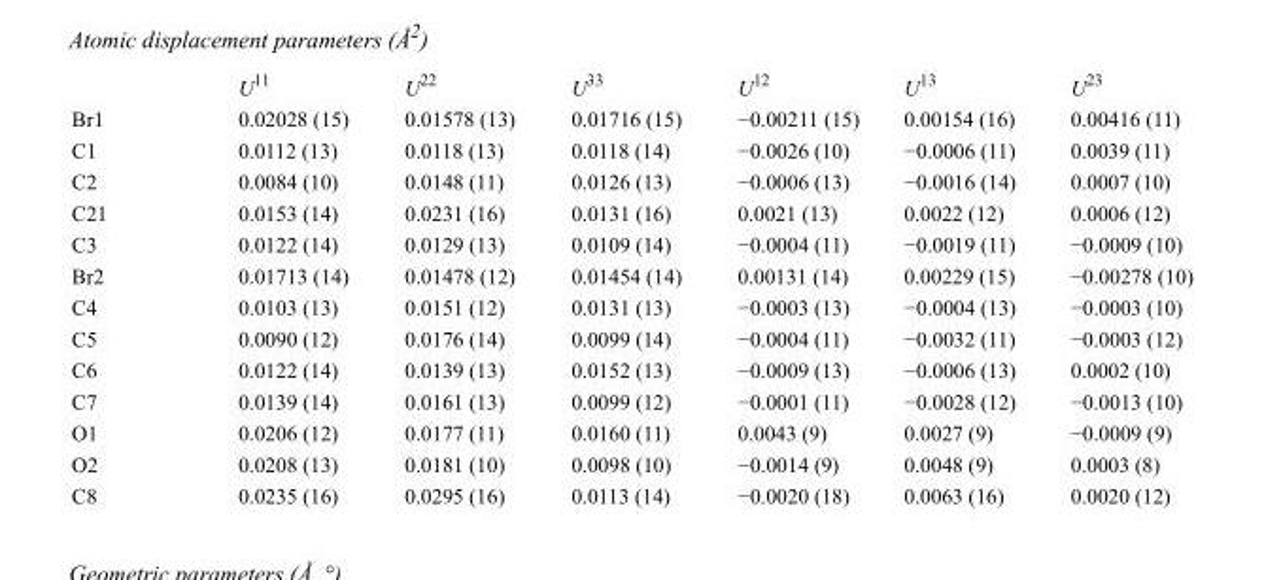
<table><thead><tr><td></td><td>U<sup>11</sup></td><td>U<sup>22</sup></td><td>U<sup>33</sup></td><td>U<sup>12</sup></td><td>U<sup>13</sup></td><td>U<sup>23</sup></td></tr></thead><tbody><tr><td>Br1</td><td>0.02028 (15)</td><td>0.01578 (13)</td><td>0.01716 (15)</td><td>−0.00211 (15)</td><td>0.00154 (16)</td><td>0.00416 (11)</td></tr><tr><td>C1</td><td>0.0112 (13)</td><td>0.0118 (13)</td><td>0.0118 (14)</td><td>−0.0026 (10)</td><td>−0.0006 (11)</td><td>0.0039 (11)</td></tr><tr><td>C2</td><td>0.0084 (10)</td><td>0.0148 (11)</td><td>0.0126 (13)</td><td>−0.0006 (13)</td><td>−0.0016 (14)</td><td>0.0007 (10)</td></tr><tr><td>C21</td><td>0.0153 (14)</td><td>0.0231 (16)</td><td>0.0131 (16)</td><td>0.0021 (13)</td><td>0.0022 (12)</td><td>0.0006 (12)</td></tr><tr><td>C3</td><td>0.0122 (14)</td><td>0.0129 (13)</td><td>0.0109 (14)</td><td>−0.0004 (11)</td><td>−0.0019 (11)</td><td>−0.0009 (10)</td></tr><tr><td>Br2</td><td>0.01713 (14)</td><td>0.01478 (12)</td><td>0.01454 (14)</td><td>0.00131 (14)</td><td>0.00229 (15)</td><td>−0.00278 (10)</td></tr><tr><td>C4</td><td>0.0103 (13)</td><td>0.0151 (12)</td><td>0.0131 (13)</td><td>−0.0003 (13)</td><td>−0.0004 (13)</td><td>−0.0003 (10)</td></tr><tr><td>C5</td><td>0.0090 (12)</td><td>0.0176 (14)</td><td>0.0099 (14)</td><td>−0.0004 (11)</td><td>−0.0032 (11)</td><td>−0.0003 (12)</td></tr><tr><td>C6</td><td>0.0122 (14)</td><td>0.0139 (13)</td><td>0.0152 (13)</td><td>−0.0009 (13)</td><td>−0.0006 (13)</td><td>0.0002 (10)</td></tr><tr><td>C7</td><td>0.0139 (14)</td><td>0.0161 (13)</td><td>0.0099 (12)</td><td>−0.0001 (11)</td><td>−0.0028 (12)</td><td>−0.0013 (10)</td></tr><tr><td>O1</td><td>0.0206 (12)</td><td>0.0177 (11)</td><td>0.0160 (11)</td><td>0.0043 (9)</td><td>0.0027 (9)</td><td>−0.0009 (9)</td></tr><tr><td>O2</td><td>0.0208 (13)</td><td>0.0181 (10)</td><td>0.0098 (10)</td><td>−0.0014 (9)</td><td>0.0048 (9)</td><td>0.0003 (8)</td></tr><tr><td>C8</td><td>0.0235 (16)</td><td>0.0295 (16)</td><td>0.0113 (14)</td><td>−0.0020 (18)</td><td>0.0063 (16)</td><td>0.0020 (12)</td></tr></tbody></table>